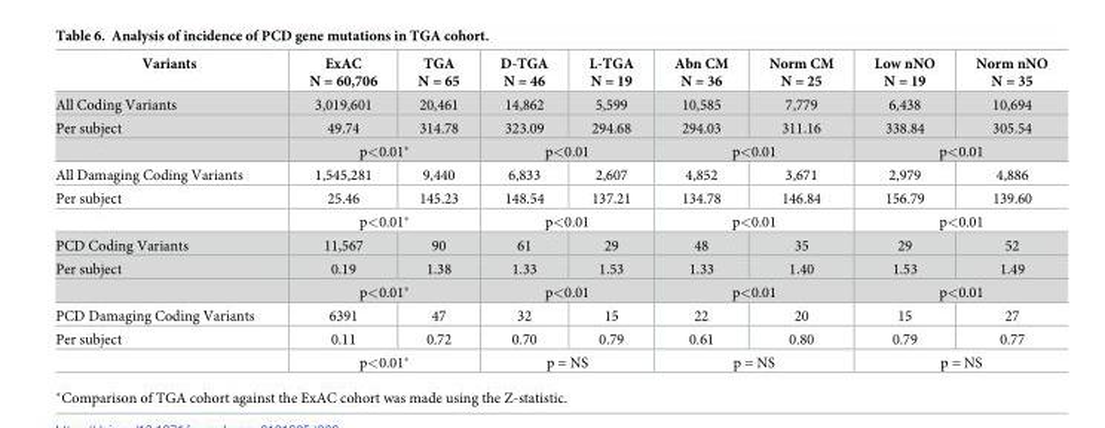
<table><thead><tr><td>Variants</td><td>ExAC N = 60,706</td><td>TGA N = 65</td><td>D-TGA N = 46</td><td>L-TGA N = 19</td><td>Abn CM N = 36</td><td>Norm CM N = 25</td><td>Low nNO N = 19</td><td>Norm nNO N = 35</td></tr></thead><tbody><tr><td>All Coding Variants</td><td>3,019,601</td><td>20,461</td><td>14,862</td><td>5,599</td><td>10,585</td><td>7,779</td><td>6,438</td><td>10,694</td></tr><tr><td rowspan="2">Per subject</td><td>49.74</td><td>314.78</td><td>323.09</td><td>294.68</td><td>294.03</td><td>311.16</td><td>338.84</td><td>305.54</td></tr><tr><td colspan="2">p&lt;0.01*</td><td colspan="2">p&lt;0.01</td><td colspan="2">p&lt;0.01</td><td colspan="2">p&lt;0.01</td></tr><tr><td>All Damaging Coding Variants</td><td>1,545,281</td><td>9,440</td><td>6,833</td><td>2,607</td><td>4,852</td><td>3,671</td><td>2,979</td><td>4,886</td></tr><tr><td rowspan="2">Per subject</td><td>25.46</td><td>145.23</td><td>148.54</td><td>137.21</td><td>134.78</td><td>146.84</td><td>156.79</td><td>139.60</td></tr><tr><td colspan="2">p&lt;0.01*</td><td colspan="2">p&lt;0.01</td><td colspan="2">p&lt;0.01</td><td colspan="2">p&lt;0.01</td></tr><tr><td>PCD Coding Variants</td><td>11,567</td><td>90</td><td>61</td><td>29</td><td>48</td><td>35</td><td>29</td><td>52</td></tr><tr><td rowspan="2">Per subject</td><td>0.19</td><td>1.38</td><td>1.33</td><td>1.53</td><td>1.33</td><td>1.40</td><td>1.53</td><td>1.49</td></tr><tr><td colspan="2">p&lt;0.01*</td><td colspan="2">p&lt;0.01</td><td colspan="2">p&lt;0.01</td><td colspan="2">p&lt;0.01</td></tr><tr><td>PCD Damaging Coding Variants</td><td>6391</td><td>47</td><td>32</td><td>15</td><td>22</td><td>20</td><td>15</td><td>27</td></tr><tr><td rowspan="2">Per subject</td><td>0.11</td><td>0.72</td><td>0.70</td><td>0.79</td><td>0.61</td><td>0.80</td><td>0.79</td><td>0.77</td></tr><tr><td colspan="2">p&lt;0.01*</td><td colspan="2">p = NS</td><td colspan="2">p = NS</td><td colspan="2">p = NS</td></tr></tbody></table>